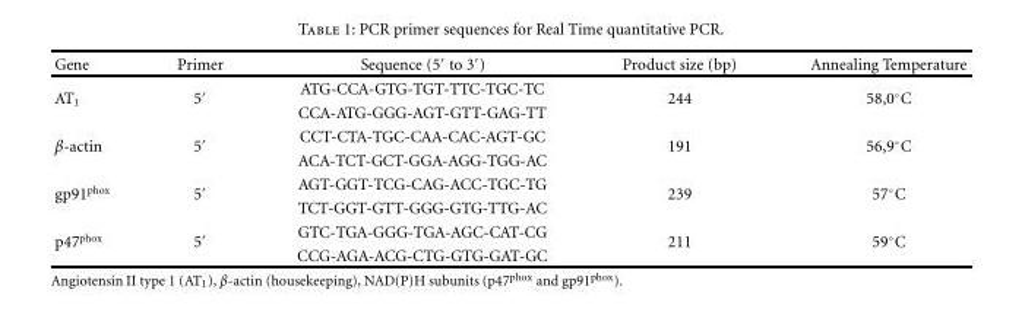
<table><thead><tr><td>Gene</td><td>Primer</td><td>Sequence (5′ to 3′)</td><td>Product size (bp)</td><td>Annealing Temperature</td></tr></thead><tbody><tr><td rowspan="2">AT<sub>1</sub></td><td rowspan="2">5′</td><td>ATG-CCA-GTG-TGT-TTC-TGC-TC</td><td rowspan="2">244</td><td rowspan="2">58,0◦C</td></tr><tr><td>CCA-ATG-GGG-AGT-GTT-GAG-TT</td></tr><tr><td rowspan="2">β-actin</td><td rowspan="2">5′</td><td>CCT-CTA-TGC-CAA-CAC-AGT-GC</td><td rowspan="2">191</td><td rowspan="2">56,9◦C</td></tr><tr><td>ACA-TCT-GCT-GGA-AGG-TGG-AC</td></tr><tr><td rowspan="2">gp91<sup>phox</sup></td><td rowspan="2">5′</td><td>AGT-GGT-TCG-CAG-ACC-TGC-TG</td><td rowspan="2">239</td><td rowspan="2">57◦C</td></tr><tr><td>TCT-GGT-GTT-GGG-GTG-TTG-AC</td></tr><tr><td rowspan="2">p47<sup>phox</sup></td><td rowspan="2">5′</td><td>GTC-TGA-GGG-TGA-AGC-CAT-CG</td><td rowspan="2">211</td><td rowspan="2">59◦C</td></tr><tr><td>CCG-AGA-ACG-CTG-GTG-GAT-GC</td></tr></tbody></table>